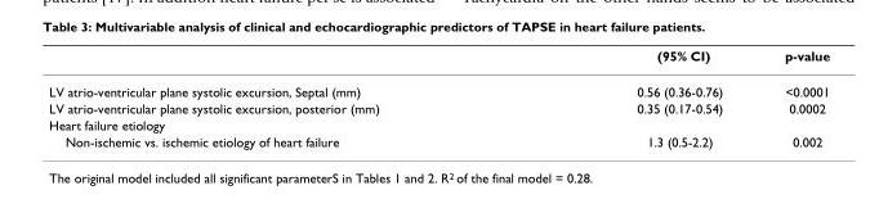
<table><thead><tr><td></td><td>(95% CI)</td><td>p-value</td></tr></thead><tbody><tr><td>LV atrio-ventricular plane systolic excursion, Septal (mm)</td><td>0.56 (0.36-0.76)</td><td>&lt;0.0001</td></tr><tr><td>LV atrio-ventricular plane systolic excursion, posterior (mm)</td><td>0.35 (0.17-0.54)</td><td>0.0002</td></tr><tr><td colspan="3">Heart failure etiology</td></tr><tr><td>Non-ischemic vs. ischemic etiology of heart failure</td><td>1.3 (0.5-2.2)</td><td>0.002</td></tr></tbody></table>